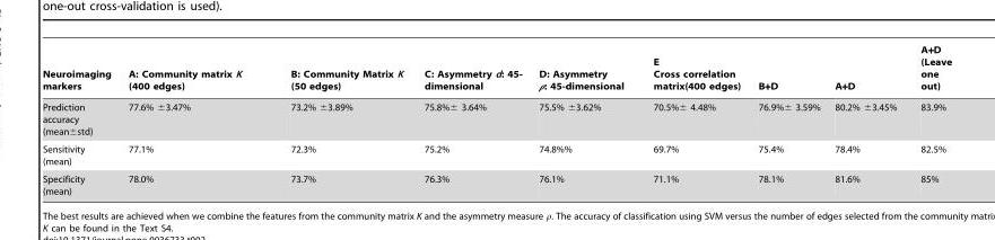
<table><thead><tr><td>Neuroimaging markers</td><td>A: Community matrix K (400 edges)</td><td>B: Community Matrix K (50 edges)</td><td>C: Asymmetry d: 45- dimensional</td><td>D: Asymmetry ρ: 45-dimensional</td><td>E Cross correlation matrix(400 edges)</td><td>B+D</td><td>A+D</td><td>A+D (Leave one out)</td></tr></thead><tbody><tr><td>Prediction accuracy (mean±std)</td><td>77.6% ±3.47%</td><td>73.2% ±3.89%</td><td>75.8%± 3.64%</td><td>75.5% ±3.62%</td><td>70.5%± 4.48%</td><td>76.9%± 3.59%</td><td>80.2% ±3.45%</td><td>83.9%</td></tr><tr><td>Sensitivity (mean)</td><td>77.1%</td><td>72.3%</td><td>75.2%</td><td>74.8%%</td><td>69.7%</td><td>75.4%</td><td>78.4%</td><td>82.5%</td></tr><tr><td>Specificity (mean)</td><td>78.0%</td><td>73.7%</td><td>76.3%</td><td>76.1%</td><td>71.1%</td><td>78.1%</td><td>81.6%</td><td>85%</td></tr></tbody></table>